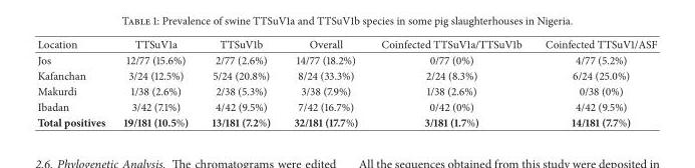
<table><thead><tr><td>Location</td><td>TTSuV1a</td><td>TTSuV1b</td><td>Overall</td><td>Coinfected TTSuV1a/TTSuV1b</td><td>Coinfected TTSuV1/ASF</td></tr></thead><tbody><tr><td>Jos</td><td>12/77 (15.6%)</td><td>2/77 (2.6%)</td><td>14/77 (18.2%)</td><td>0/77 (0%)</td><td>4/77 (5.2%)</td></tr><tr><td>Kafanchan</td><td>3/24 (12.5%)</td><td>5/24 (20.8%)</td><td>8/24 (33.3%)</td><td>2/24 (8.3%)</td><td>6/24 (25.0%)</td></tr><tr><td>Makurdi</td><td>1/38 (2.6%)</td><td>2/38 (5.3%)</td><td>3/38 (7.9%)</td><td>1/38 (2.6%)</td><td>0/38 (0%)</td></tr><tr><td>Ibadan</td><td>3/42 (7.1%)</td><td>4/42 (9.5%)</td><td>7/42 (16.7%)</td><td>0/42 (0%)</td><td>4/42 (9.5%)</td></tr><tr><td>Total positives</td><td>19/181 (10.5%)</td><td>13/181 (7.2%)</td><td>32/181 (17.7%)</td><td>3/181 (1.7%)</td><td>14/181 (7.7%)</td></tr></tbody></table>